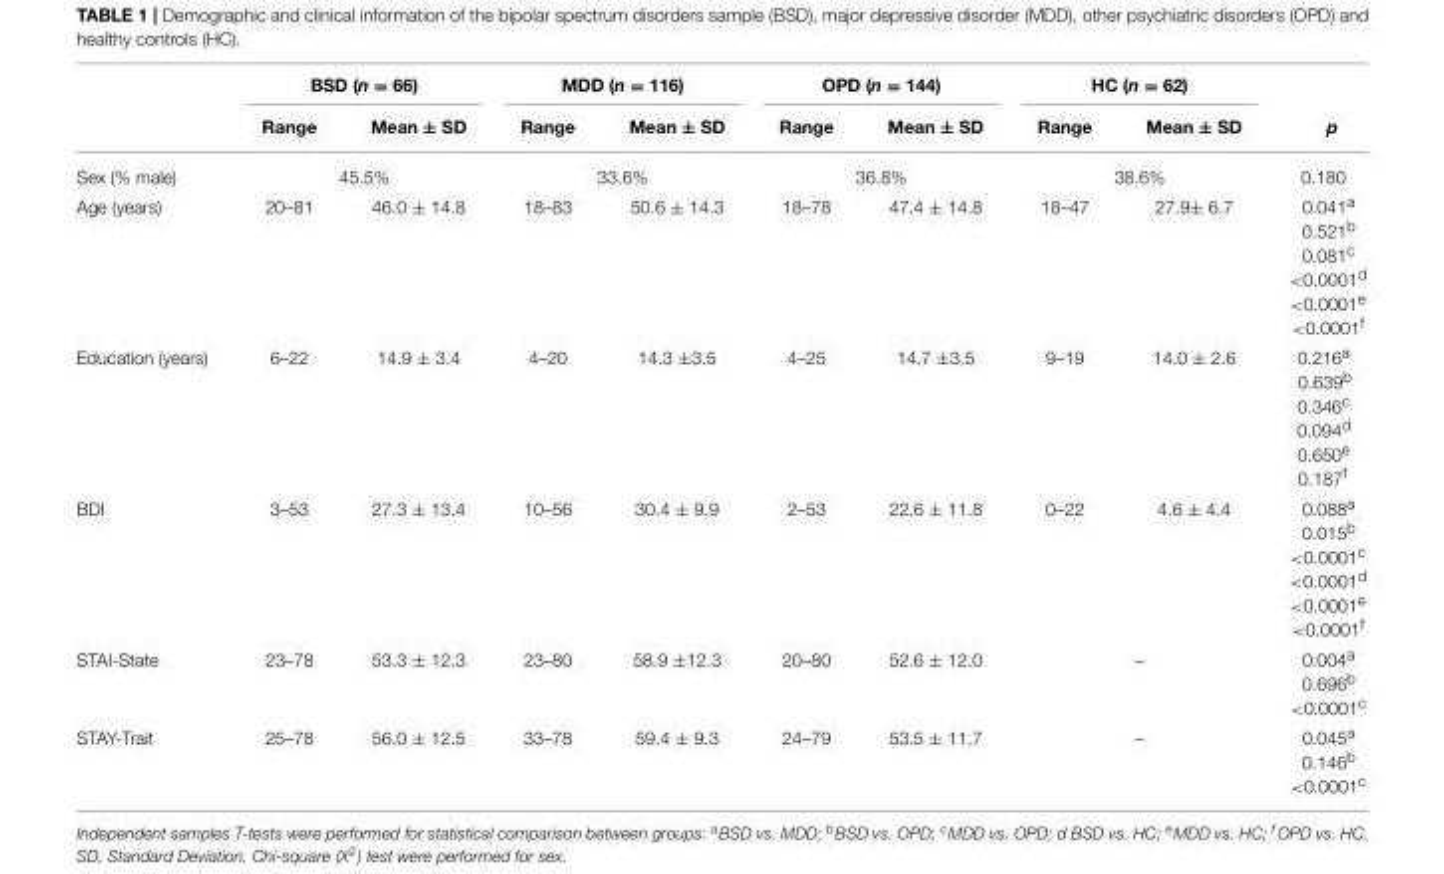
<table><thead><tr><td rowspan="2"></td><td colspan="2">BSD (n = 66)</td><td colspan="2">MDD (n = 116)</td><td colspan="2">OPD (n = 144)</td><td colspan="2">HC (n = 62)</td><td rowspan="2">p</td></tr><tr><td>Range</td><td>Mean ± SD</td><td>Range</td><td>Mean ± SD</td><td>Range</td><td>Mean ± SD</td><td>Range</td><td>Mean ± SD</td></tr></thead><tbody><tr><td>Sex (% male)</td><td colspan="2">45.5%</td><td colspan="2">33.6%</td><td colspan="2">36.8%</td><td colspan="2">38.6%</td><td>0.180</td></tr><tr><td>Age (years)</td><td>20–81</td><td>46.0 ± 14.8</td><td>18–83</td><td>50.6 ± 14.3</td><td>18–78</td><td>47.4 ± 14.8</td><td>18–47</td><td>27.9± 6.7</td><td>0.041<sup>a</sup> 0.521<sup>b</sup> 0.081<sup>c</sup> &lt;0.0001<sup>d</sup> &lt;0.0001<sup>e</sup> &lt;0.0001<sup>f</sup></td></tr><tr><td>Education (years)</td><td>6–22</td><td>14.9 ± 3.4</td><td>4–20</td><td>14.3 ±3.5</td><td>4–25</td><td>14.7 ±3.5</td><td>9–19</td><td>14.0 ± 2.6</td><td>0.216<sup>a</sup> 0.639<sup>b</sup> 0.346<sup>c</sup> 0.094<sup>d</sup> 0.650<sup>e</sup> 0.187<sup>f</sup></td></tr><tr><td>BDI</td><td>3–53</td><td>27.3 ± 13.4</td><td>10–56</td><td>30.4 ± 9.9</td><td>2–53</td><td>22.6 ± 11.8</td><td>0–22</td><td>4.6 ± 4.4</td><td>0.088<sup>a</sup> 0.015<sup>b</sup> &lt;0.0001<sup>c</sup> &lt;0.0001<sup>d</sup> &lt;0.0001<sup>e</sup> &lt;0.0001<sup>f</sup></td></tr><tr><td>STAI-State</td><td>23–78</td><td>53.3 ± 12.3</td><td>23–80</td><td>58.9 ±12.3</td><td>20–80</td><td>52.6 ± 12.0</td><td colspan="2">–</td><td>0.004<sup>a</sup> 0.696<sup>b</sup> &lt;0.0001<sup>c</sup></td></tr><tr><td>STAY-Trait</td><td>25–78</td><td>56.0 ± 12.5</td><td>33–78</td><td>59.4 ± 9.3</td><td>24–79</td><td>53.5 ± 11.7</td><td colspan="2">–</td><td>0.045<sup>a</sup> 0.146<sup>b</sup> &lt;0.0001<sup>c</sup></td></tr></tbody></table>